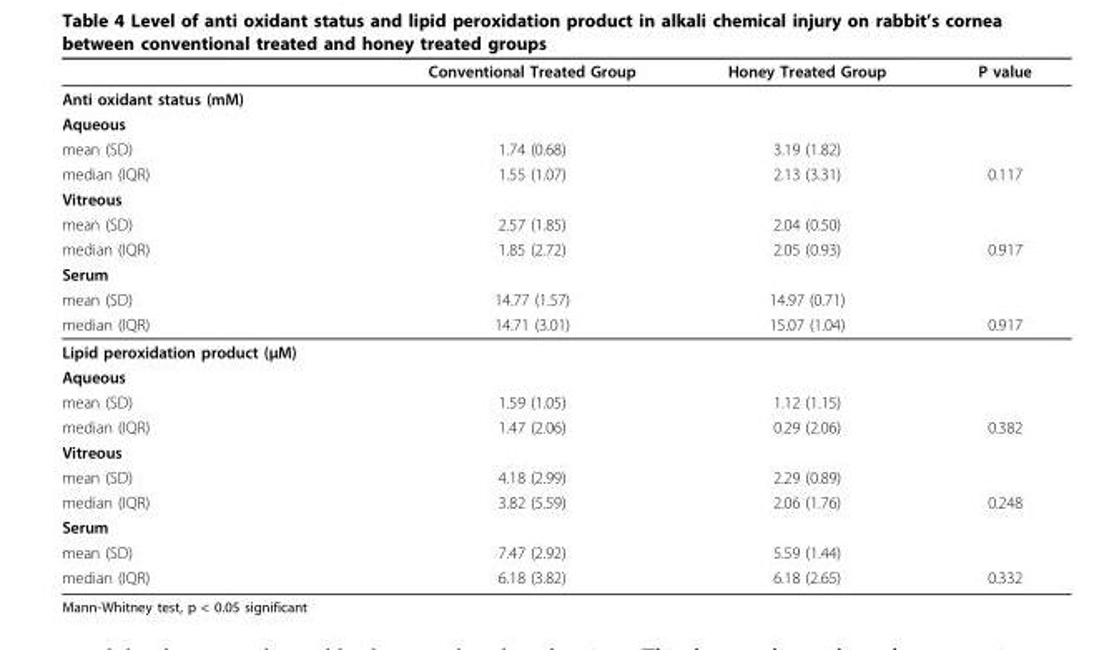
<table><thead><tr><td></td><td>Conventional Treated Group</td><td>Honey Treated Group</td><td>P value</td></tr></thead><tbody><tr><td colspan="4">Anti oxidant status (mM)</td></tr><tr><td colspan="4">Aqueous</td></tr><tr><td>mean (SD)</td><td>1.74 (0.68)</td><td>3.19 (1.82)</td><td></td></tr><tr><td>median (IQR)</td><td>1.55 (1.07)</td><td>2.13 (3.31)</td><td>0.117</td></tr><tr><td colspan="4">Vitreous</td></tr><tr><td>mean (SD)</td><td>2.57 (1.85)</td><td>2.04 (0.50)</td><td></td></tr><tr><td>median (IQR)</td><td>1.85 (2.72)</td><td>2.05 (0.93)</td><td>0.917</td></tr><tr><td colspan="4">Serum</td></tr><tr><td>mean (SD)</td><td>14.77 (1.57)</td><td>14.97 (0.71)</td><td></td></tr><tr><td>median (IQR)</td><td>14.71 (3.01)</td><td>15.07 (1.04)</td><td>0.917</td></tr><tr><td colspan="4">Lipid peroxidation product (μM)</td></tr><tr><td colspan="4">Aqueous</td></tr><tr><td>mean (SD)</td><td>1.59 (1.05)</td><td>1.12 (1.15)</td><td></td></tr><tr><td>median (IQR)</td><td>1.47 (2.06)</td><td>0.29 (2.06)</td><td>0.382</td></tr><tr><td colspan="4">Vitreous</td></tr><tr><td>mean (SD)</td><td>4.18 (2.99)</td><td>2.29 (0.89)</td><td></td></tr><tr><td>median (IQR)</td><td>3.82 (5.59)</td><td>2.06 (1.76)</td><td>0.248</td></tr><tr><td colspan="4">Serum</td></tr><tr><td>mean (SD)</td><td>7.47 (2.92)</td><td>5.59 (1.44)</td><td></td></tr><tr><td>median (IQR)</td><td>6.18 (3.82)</td><td>6.18 (2.65)</td><td>0.332</td></tr></tbody></table>